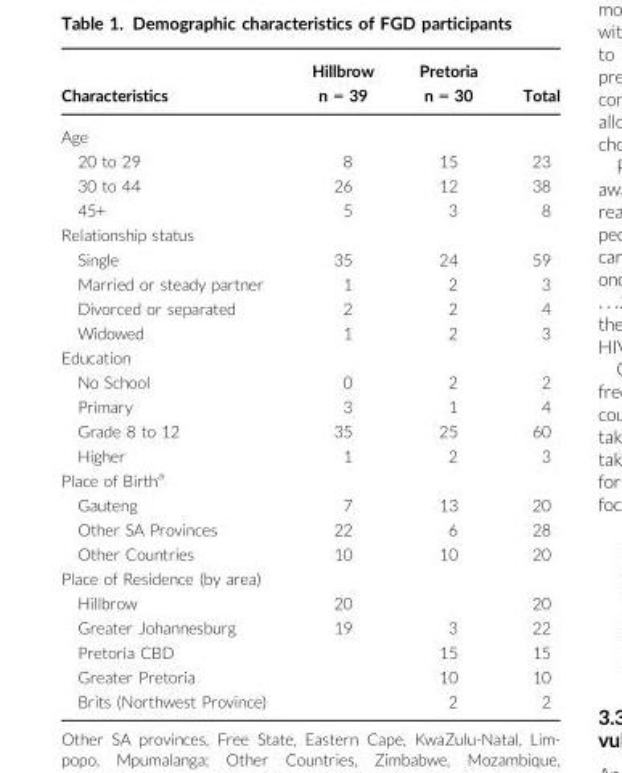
<table><thead><tr><td>Characteristics</td><td>Hillbrow n = 39</td><td>Pretoria n = 30</td><td>Total</td></tr></thead><tbody><tr><td colspan="4">Age</td></tr><tr><td>20 to 29</td><td>8</td><td>15</td><td>23</td></tr><tr><td>30 to 44</td><td>26</td><td>12</td><td>38</td></tr><tr><td>45+</td><td>5</td><td>3</td><td>8</td></tr><tr><td colspan="4">Relationship status</td></tr><tr><td>Single</td><td>35</td><td>24</td><td>59</td></tr><tr><td>Married or steady partner</td><td>1</td><td>2</td><td>3</td></tr><tr><td>Divorced or separated</td><td>2</td><td>2</td><td>4</td></tr><tr><td>Widowed</td><td>1</td><td>2</td><td>3</td></tr><tr><td colspan="4">Education</td></tr><tr><td>No School</td><td>0</td><td>2</td><td>2</td></tr><tr><td>Primary</td><td>3</td><td>1</td><td>4</td></tr><tr><td>Grade 8 to 12</td><td>35</td><td>25</td><td>60</td></tr><tr><td>Higher</td><td>1</td><td>2</td><td>3</td></tr><tr><td colspan="4">Place of Birth<sup>a</sup></td></tr><tr><td>Gauteng</td><td>7</td><td>13</td><td>20</td></tr><tr><td>Other SA Provinces</td><td>22</td><td>6</td><td>28</td></tr><tr><td>Other Countries</td><td>10</td><td>10</td><td>20</td></tr><tr><td colspan="4">Place of Residence (by area)</td></tr><tr><td>Hillbrow</td><td>20</td><td></td><td>20</td></tr><tr><td>Greater Johannesburg</td><td>19</td><td>3</td><td>22</td></tr><tr><td>Pretoria CBD</td><td></td><td>15</td><td>15</td></tr><tr><td>Greater Pretoria</td><td></td><td>10</td><td>10</td></tr><tr><td>Brits (Northwest Province)</td><td></td><td>2</td><td>2</td></tr></tbody></table>